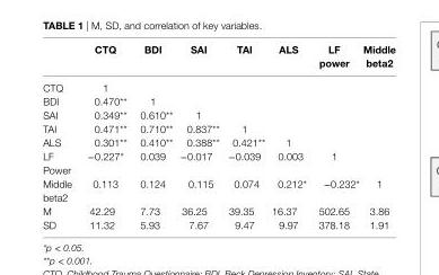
<table><thead><tr><td></td><td>cTQ</td><td>BDi</td><td>sai</td><td>Tai</td><td>als</td><td>lF power</td><td>Middle beta2</td></tr></thead><tbody><tr><td>CTQ</td><td>1</td><td></td><td></td><td></td><td></td><td></td><td></td></tr><tr><td>BDI</td><td>0.470**</td><td>1</td><td></td><td></td><td></td><td></td><td></td></tr><tr><td>SAI</td><td>0.349**</td><td>0.610**</td><td>1</td><td></td><td></td><td></td><td></td></tr><tr><td>TAI</td><td>0.471**</td><td>0.710**</td><td>0.837**</td><td>1</td><td></td><td></td><td></td></tr><tr><td>ALS</td><td>0.301**</td><td>0.410**</td><td>0.388**</td><td>0.421**</td><td>1</td><td></td><td></td></tr><tr><td>LF Power</td><td>−0.227*</td><td>0.039</td><td>−0.017</td><td>−0.039</td><td>0.003</td><td>1</td><td></td></tr><tr><td>Middle beta2</td><td>0.113</td><td>0.124</td><td>0.115</td><td>0.074</td><td>0.212*</td><td>−0.232*</td><td>1</td></tr><tr><td>M</td><td>42.29</td><td>7.73</td><td>36.25</td><td>39.35</td><td>16.37</td><td>502.65</td><td>3.86</td></tr><tr><td>SD</td><td>11.32</td><td>5.93</td><td>7.67</td><td>9.47</td><td>9.97</td><td>378.18</td><td>1.91</td></tr></tbody></table>